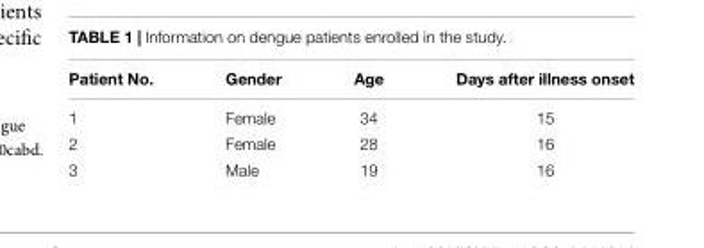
<table><thead><tr><td>Patient No.</td><td>Gender</td><td>Age</td><td>Days after illness onset</td></tr></thead><tbody><tr><td>1</td><td>Female</td><td>34</td><td>15</td></tr><tr><td>2</td><td>Female</td><td>28</td><td>16</td></tr><tr><td>3</td><td>Male</td><td>19</td><td>16</td></tr></tbody></table>